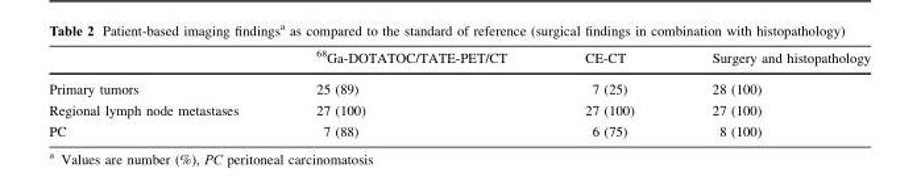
<table><thead><tr><td></td><td><sup>68</sup>Ga-DOTATOC/TATE-PET/CT</td><td>CE-CT</td><td>Surgery and histopathology</td></tr></thead><tbody><tr><td>Primary tumors</td><td>25 (89)</td><td>7 (25)</td><td>28 (100)</td></tr><tr><td>Regional lymph node metastases</td><td>27 (100)</td><td>27 (100)</td><td>27 (100)</td></tr><tr><td>PC</td><td>7 (88)</td><td>6 (75)</td><td>8 (100)</td></tr></tbody></table>